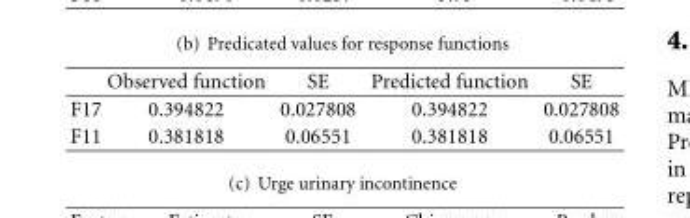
<table><thead><tr><td></td><td>Observed function</td><td>SE</td><td>Predicted function</td><td>SE</td></tr></thead><tbody><tr><td>F17</td><td>0.394822</td><td>0.027808</td><td>0.394822</td><td>0.027808</td></tr><tr><td>F11</td><td>0.381818</td><td>0.06551</td><td>0.381818</td><td>0.06551</td></tr></tbody></table>